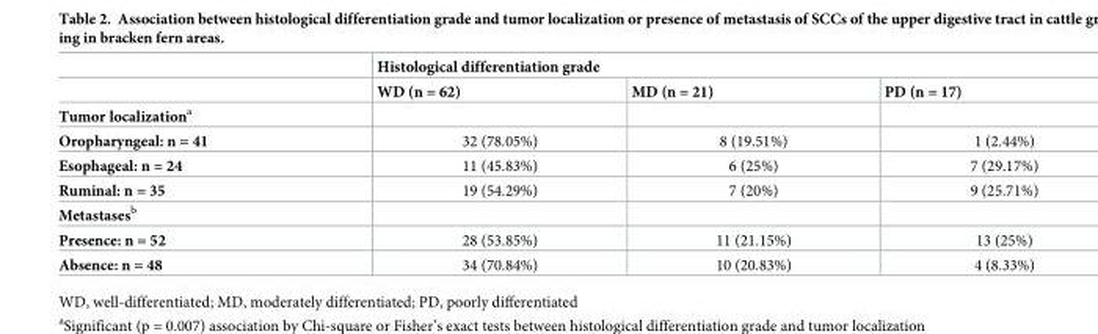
<table><thead><tr><td rowspan="2"></td><td colspan="3">Histological differentiation grade</td></tr><tr><td>WD (n = 62)</td><td>MD (n = 21)</td><td>PD (n = 17)</td></tr></thead><tbody><tr><td colspan="4">Tumor localization<sup>a</sup></td></tr><tr><td>Oropharyngeal: n = 41</td><td>32 (78.05%)</td><td>8 (19.51%)</td><td>1 (2.44%)</td></tr><tr><td>Esophageal: n = 24</td><td>11 (45.83%)</td><td>6 (25%)</td><td>7 (29.17%)</td></tr><tr><td>Ruminal: n = 35</td><td>19 (54.29%)</td><td>7 (20%)</td><td>9 (25.71%)</td></tr><tr><td colspan="4">Metastases<sup>b</sup></td></tr><tr><td>Presence: n = 52</td><td>28 (53.85%)</td><td>11 (21.15%)</td><td>13 (25%)</td></tr><tr><td>Absence: n = 48</td><td>34 (70.84%)</td><td>10 (20.83%)</td><td>4 (8.33%)</td></tr></tbody></table>